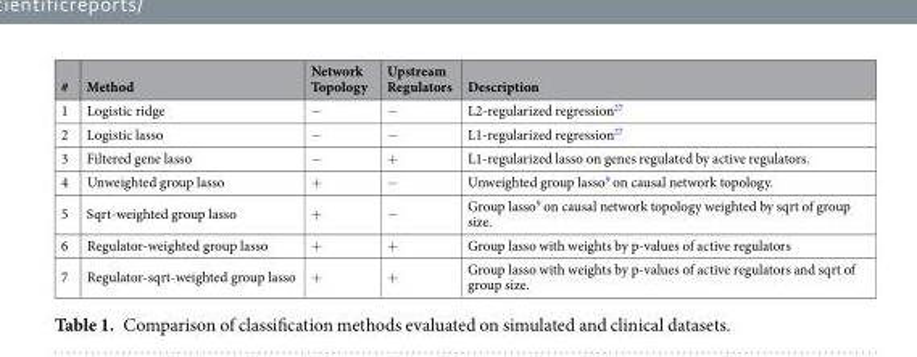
<table><thead><tr><td>#</td><td>Method</td><td>Network Topology</td><td>Upstream Regulators</td><td>Description</td></tr></thead><tbody><tr><td>1</td><td>Logistic ridge</td><td>−</td><td>−</td><td>L2-regularized regression<sup>27</sup></td></tr><tr><td>2</td><td>Logistic lasso</td><td>−</td><td>−</td><td>L1-regularized regression<sup>27</sup></td></tr><tr><td>3</td><td>Filtered gene lasso</td><td>−</td><td>+</td><td>L1-regularized lasso on genes regulated by active regulators.</td></tr><tr><td>4</td><td>Unweighted group lasso</td><td>+</td><td>−</td><td>Unweighted group lasso<sup>9</sup> on causal network topology.</td></tr><tr><td>5</td><td>Sqrt-weighted group lasso</td><td>+</td><td>−</td><td>Group lasso<sup>9</sup> on causal network topology weighted by sqrt of group size.</td></tr><tr><td>6</td><td>Regulator-weighted group lasso</td><td>+</td><td>+</td><td>Group lasso with weights by p-values of active regulators</td></tr><tr><td>7</td><td>Regulator-sqrt-weighted group lasso</td><td>+</td><td>+</td><td>Group lasso with weights by p-values of active regulators and sqrt of group size.</td></tr></tbody></table>